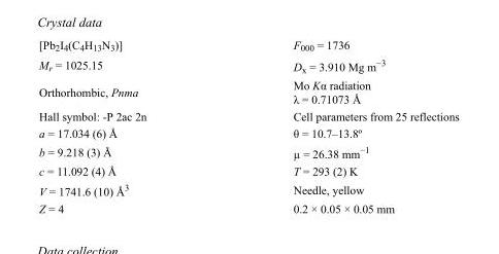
<table><tbody><tr><td>[Pb<sub>2</sub>I<sub>4</sub>(C<sub>4</sub>H<sub>13</sub>N<sub>3</sub>)]</td><td>F<sub>000</sub> = 1736</td></tr><tr><td>M<sub>r</sub> = 1025.15</td><td>D<sub>x</sub> = 3.910 Mg m<sup>−3</sup></td></tr><tr><td>Orthorhombic, Pnma</td><td>Mo Kα radiation λ = 0.71073 Å</td></tr><tr><td>Hall symbol: -P 2ac 2n</td><td>Cell parameters from 25 reflections</td></tr><tr><td>a = 17.034 (6) Å</td><td>θ = 10.7–13.8º</td></tr><tr><td>b = 9.218 (3) Å</td><td>µ = 26.38 mm<sup>−1</sup></td></tr><tr><td>c = 11.092 (4) Å</td><td>T = 293 (2) K</td></tr><tr><td>V = 1741.6 (10) Å<sup>3</sup></td><td>Needle, yellow</td></tr><tr><td>Z = 4</td><td>0.2 × 0.05 × 0.05 mm</td></tr></tbody></table>